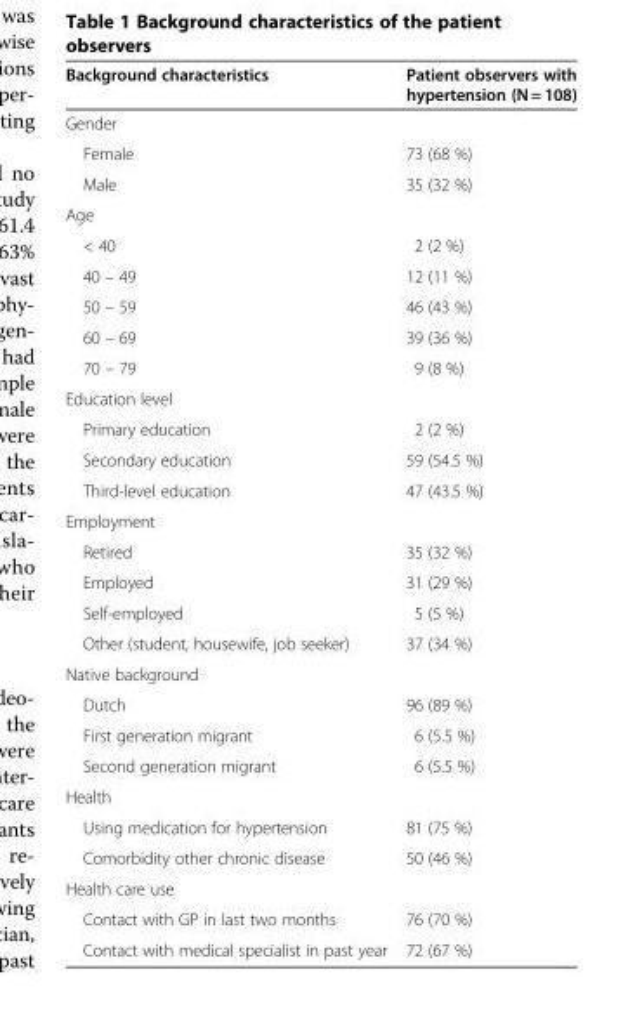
<table><thead><tr><td>Background characteristics</td><td>Patient observers with hypertension (N = 108)</td></tr></thead><tbody><tr><td colspan="2">Gender</td></tr><tr><td>Female</td><td>73 (68 %)</td></tr><tr><td>Male</td><td>35 (32 %)</td></tr><tr><td colspan="2">Age</td></tr><tr><td>&lt; 40</td><td>2 (2 %)</td></tr><tr><td>40 – 49</td><td>12 (11 %)</td></tr><tr><td>50 – 59</td><td>46 (43 %)</td></tr><tr><td>60 – 69</td><td>39 (36 %)</td></tr><tr><td>70 – 79</td><td>9 (8 %)</td></tr><tr><td colspan="2">Education level</td></tr><tr><td>Primary education</td><td>2 (2 %)</td></tr><tr><td>Secondary education</td><td>59 (54.5 %)</td></tr><tr><td>Third-level education</td><td>47 (43.5 %)</td></tr><tr><td colspan="2">Employment</td></tr><tr><td>Retired</td><td>35 (32 %)</td></tr><tr><td>Employed</td><td>31 (29 %)</td></tr><tr><td>Self-employed</td><td>5 (5 %)</td></tr><tr><td>Other (student, housewife, job seeker)</td><td>37 (34 %)</td></tr><tr><td colspan="2">Native background</td></tr><tr><td>Dutch</td><td>96 (89 %)</td></tr><tr><td>First generation migrant</td><td>6 (5.5 %)</td></tr><tr><td>Second generation migrant</td><td>6 (5.5 %)</td></tr><tr><td colspan="2">Health</td></tr><tr><td>Using medication for hypertension</td><td>81 (75 %)</td></tr><tr><td>Comorbidity other chronic disease</td><td>50 (46 %)</td></tr><tr><td colspan="2">Health care use</td></tr><tr><td>Contact with GP in last two months</td><td>76 (70 %)</td></tr><tr><td>Contact with medical specialist in past year</td><td>72 (67 %)</td></tr></tbody></table>